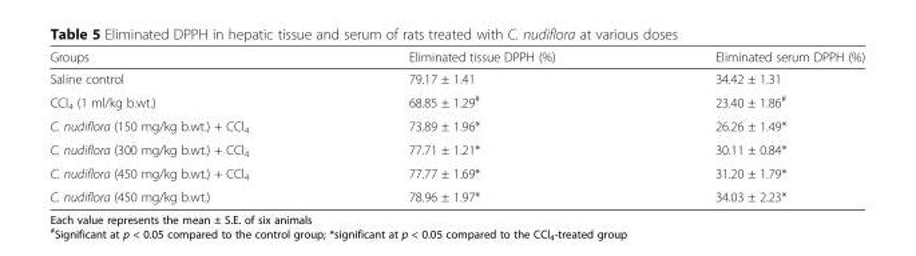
<table><thead><tr><td>Groups</td><td>Eliminated tissue DPPH (%)</td><td>Eliminated serum DPPH (%)</td></tr></thead><tbody><tr><td>Saline control</td><td>79.17 ± 1.41</td><td>34.42 ± 1.31</td></tr><tr><td>CCl<sub>4</sub> (1 ml/kg b.wt.)</td><td>68.85 ± 1.29<sup>#</sup></td><td>23.40 ± 1.86<sup>#</sup></td></tr><tr><td>C. nudiflora (150 mg/kg b.wt.) + CCl<sub>4</sub></td><td>73.89 ± 1.96*</td><td>26.26 ± 1.49*</td></tr><tr><td>C. nudiflora (300 mg/kg b.wt.) + CCl<sub>4</sub></td><td>77.71 ± 1.21*</td><td>30.11 ± 0.84*</td></tr><tr><td>C. nudiflora (450 mg/kg b.wt.) + CCl<sub>4</sub></td><td>77.77 ± 1.69*</td><td>31.20 ± 1.79*</td></tr><tr><td>C. nudiflora (450 mg/kg b.wt.)</td><td>78.96 ± 1.97*</td><td>34.03 ± 2.23*</td></tr></tbody></table>